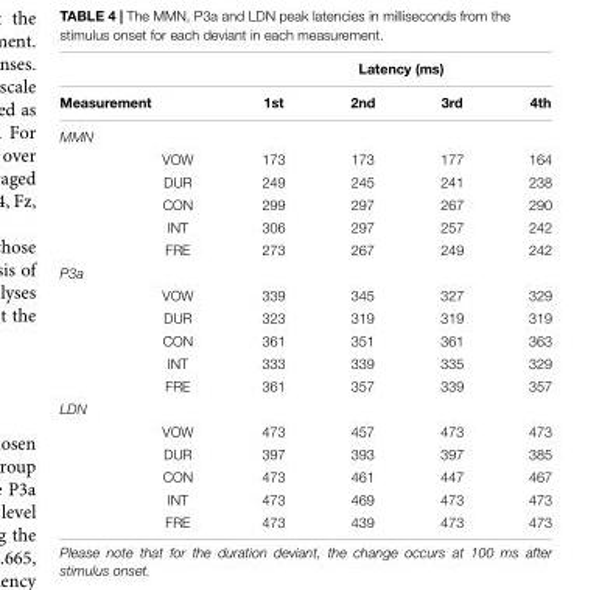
<table><thead><tr><td colspan="6">Latency (ms)</td></tr><tr><td colspan="2">Measurement</td><td rowspan="2">1st</td><td rowspan="2">2nd</td><td rowspan="2">3rd</td><td rowspan="2">4th</td></tr><tr><td>MMN</td><td></td></tr></thead><tbody><tr><td></td><td>VOW</td><td>173</td><td>173</td><td>177</td><td>164</td></tr><tr><td></td><td>DUR</td><td>249</td><td>245</td><td>241</td><td>238</td></tr><tr><td></td><td>CON</td><td>299</td><td>297</td><td>267</td><td>290</td></tr><tr><td></td><td>INT</td><td>306</td><td>297</td><td>257</td><td>242</td></tr><tr><td></td><td>FRE</td><td>273</td><td>267</td><td>249</td><td>242</td></tr><tr><td colspan="6">P3a</td></tr><tr><td></td><td>VOW</td><td>339</td><td>345</td><td>327</td><td>329</td></tr><tr><td></td><td>DUR</td><td>323</td><td>319</td><td>319</td><td>319</td></tr><tr><td></td><td>CON</td><td>361</td><td>351</td><td>361</td><td>363</td></tr><tr><td></td><td>INT</td><td>333</td><td>339</td><td>335</td><td>329</td></tr><tr><td></td><td>FRE</td><td>361</td><td>357</td><td>339</td><td>357</td></tr><tr><td colspan="6">LDN</td></tr><tr><td></td><td>VOW</td><td>473</td><td>457</td><td>473</td><td>473</td></tr><tr><td></td><td>DUR</td><td>397</td><td>393</td><td>397</td><td>385</td></tr><tr><td></td><td>CON</td><td>473</td><td>461</td><td>447</td><td>467</td></tr><tr><td></td><td>INT</td><td>473</td><td>469</td><td>473</td><td>473</td></tr><tr><td></td><td>FRE</td><td>473</td><td>439</td><td>473</td><td>473</td></tr></tbody></table>